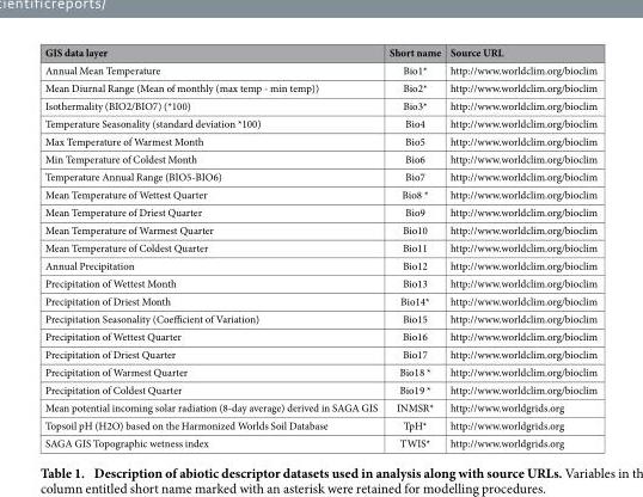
<table><thead><tr><td>GIS data layer</td><td>Short name</td><td>Source URL</td></tr></thead><tbody><tr><td>Annual Mean Temperature</td><td>Bio1*</td><td>http://www.worldclim.org/bioclim</td></tr><tr><td>Mean Diurnal Range (Mean of monthly (max temp - min temp))</td><td>Bio2*</td><td>http://www.worldclim.org/bioclim</td></tr><tr><td>Isothermality (BIO2/BIO7) (*100)</td><td>Bio3*</td><td>http://www.worldclim.org/bioclim</td></tr><tr><td>Temperature Seasonality (standard deviation *100)</td><td>Bio4</td><td>http://www.worldclim.org/bioclim</td></tr><tr><td>Max Temperature of Warmest Month</td><td>Bio5</td><td>http://www.worldclim.org/bioclim</td></tr><tr><td>Min Temperature of Coldest Month</td><td>Bio6</td><td>http://www.worldclim.org/bioclim</td></tr><tr><td>Temperature Annual Range (BIO5-BIO6)</td><td>Bio7</td><td>http://www.worldclim.org/bioclim</td></tr><tr><td>Mean Temperature of Wettest Quarter</td><td>Bio8 *</td><td>http://www.worldclim.org/bioclim</td></tr><tr><td>Mean Temperature of Driest Quarter</td><td>Bio9</td><td>http://www.worldclim.org/bioclim</td></tr><tr><td>Mean Temperature of Warmest Quarter</td><td>Bio10</td><td>http://www.worldclim.org/bioclim</td></tr><tr><td>Mean Temperature of Coldest Quarter</td><td>Bio11</td><td>http://www.worldclim.org/bioclim</td></tr><tr><td>Annual Precipitation</td><td>Bio12</td><td>http://www.worldclim.org/bioclim</td></tr><tr><td>Precipitation of Wettest Month</td><td>Bio13</td><td>http://www.worldclim.org/bioclim</td></tr><tr><td>Precipitation of Driest Month</td><td>Bio14*</td><td>http://www.worldclim.org/bioclim</td></tr><tr><td>Precipitation Seasonality (Coefficient of Variation)</td><td>Bio15</td><td>http://www.worldclim.org/bioclim</td></tr><tr><td>Precipitation of Wettest Quarter</td><td>Bio16</td><td>http://www.worldclim.org/bioclim</td></tr><tr><td>Precipitation of Driest Quarter</td><td>Bio17</td><td>http://www.worldclim.org/bioclim</td></tr><tr><td>Precipitation of Warmest Quarter</td><td>Bio18 *</td><td>http://www.worldclim.org/bioclim</td></tr><tr><td>Precipitation of Coldest Quarter</td><td>Bio19 *</td><td>http://www.worldclim.org/bioclim</td></tr><tr><td>Mean potential incoming solar radiation (8-day average) derived in SAGA GIS</td><td>INMSR*</td><td>http://www.worldgrids.org</td></tr><tr><td>Topsoil pH (H2O) based on the Harmonized Worlds Soil Database</td><td>TpH*</td><td>http://www.worldgrids.org</td></tr><tr><td>SAGA GIS Topographic wetness index</td><td>TWIS*</td><td>http://www.worldgrids.org</td></tr></tbody></table>